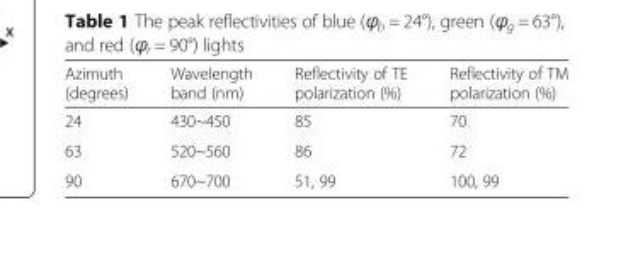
<table><thead><tr><td>Azimuth (degrees)</td><td>Wavelength band (nm)</td><td>Reflectivity of TE polarization (%)</td><td>Reflectivity of TM polarization (%)</td></tr></thead><tbody><tr><td>24</td><td>430~450</td><td>85</td><td>70</td></tr><tr><td>63</td><td>520~560</td><td>86</td><td>72</td></tr><tr><td>90</td><td>670~700</td><td>51, 99</td><td>100, 99</td></tr></tbody></table>